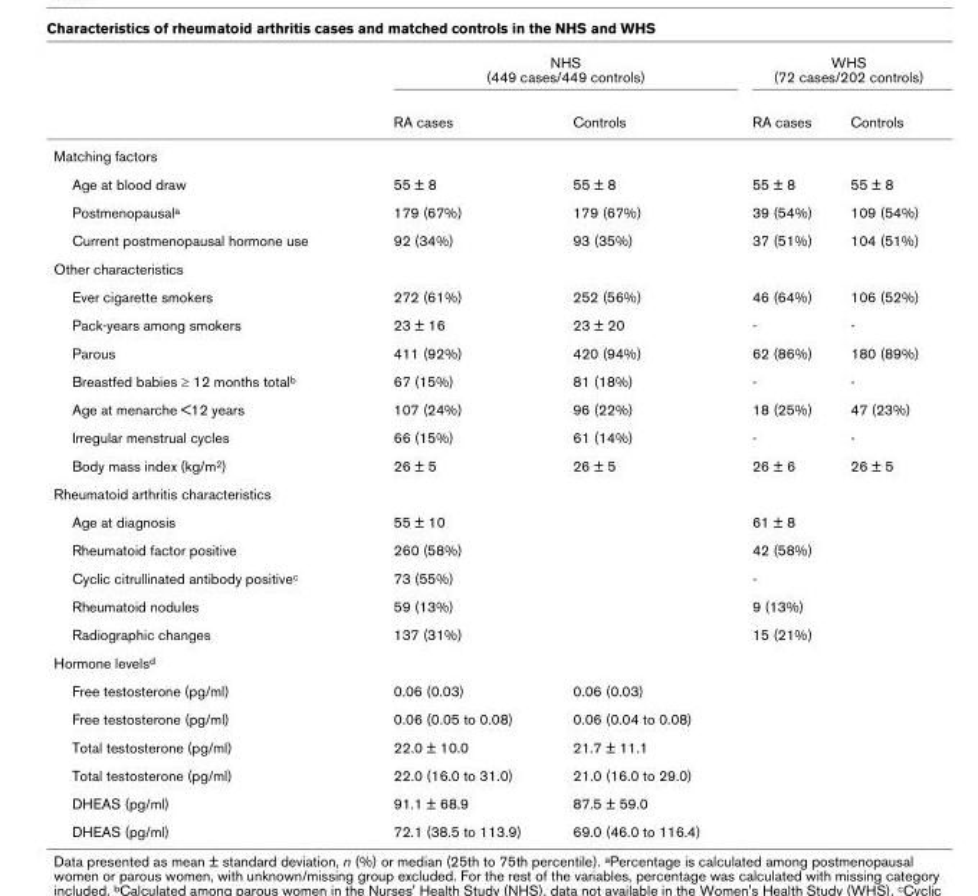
<table><thead><tr><td rowspan="2"></td><td colspan="2">NHS (449 cases/449 controls)</td><td colspan="2">WHS (72 cases/202 controls)</td></tr><tr><td>RA cases</td><td>Controls</td><td>RA cases</td><td>Controls</td></tr></thead><tbody><tr><td colspan="5">Matching factors</td></tr><tr><td>Age at blood draw</td><td>55 ± 8</td><td>55 ± 8</td><td>55 ± 8</td><td>55 ± 8</td></tr><tr><td>Postmenopausal<sup>a</sup></td><td>179 (67%)</td><td>179 (67%)</td><td>39 (54%)</td><td>109 (54%)</td></tr><tr><td>Current postmenopausal hormone use</td><td>92 (34%)</td><td>93 (35%)</td><td>37 (51%)</td><td>104 (51%)</td></tr><tr><td colspan="5">Other characteristics</td></tr><tr><td>Ever cigarette smokers</td><td>272 (61%)</td><td>252 (56%)</td><td>46 (64%)</td><td>106 (52%)</td></tr><tr><td>Pack-years among smokers</td><td>23 ± 16</td><td>23 ± 20</td><td>-</td><td>-</td></tr><tr><td>Parous</td><td>411 (92%)</td><td>420 (94%)</td><td>62 (86%)</td><td>180 (89%)</td></tr><tr><td>Breastfed babies ≥ 12 months total<sup>b</sup></td><td>67 (15%)</td><td>81 (18%)</td><td>-</td><td>-</td></tr><tr><td>Age at menarche &lt;12 years</td><td>107 (24%)</td><td>96 (22%)</td><td>18 (25%)</td><td>47 (23%)</td></tr><tr><td>Irregular menstrual cycles</td><td>66 (15%)</td><td>61 (14%)</td><td>-</td><td>-</td></tr><tr><td>Body mass index (kg/m<sup>2</sup>)</td><td>26 ± 5</td><td>26 ± 5</td><td>26 ± 6</td><td>26 ± 5</td></tr><tr><td colspan="5">Rheumatoid arthritis characteristics</td></tr><tr><td>Age at diagnosis</td><td>55 ± 10</td><td></td><td>61 ± 8</td><td></td></tr><tr><td>Rheumatoid factor positive</td><td>260 (58%)</td><td></td><td>42 (58%)</td><td></td></tr><tr><td>Cyclic citrullinated antibody positive<sup>c</sup></td><td>73 (55%)</td><td></td><td>-</td><td></td></tr><tr><td>Rheumatoid nodules</td><td>59 (13%)</td><td></td><td>9 (13%)</td><td></td></tr><tr><td>Radiographic changes</td><td>137 (31%)</td><td></td><td>15 (21%)</td><td></td></tr><tr><td colspan="5">Hormone levels<sup>d</sup></td></tr><tr><td>Free testosterone (pg/ml)</td><td>0.06 (0.03)</td><td>0.06 (0.03)</td><td></td><td></td></tr><tr><td>Free testosterone (pg/ml)</td><td>0.06 (0.05 to 0.08)</td><td>0.06 (0.04 to 0.08)</td><td></td><td></td></tr><tr><td>Total testosterone (pg/ml)</td><td>22.0 ± 10.0</td><td>21.7 ± 11.1</td><td></td><td></td></tr><tr><td>Total testosterone (pg/ml)</td><td>22.0 (16.0 to 31.0)</td><td>21.0 (16.0 to 29.0)</td><td></td><td></td></tr><tr><td>DHEAS (pg/ml)</td><td>91.1 ± 68.9</td><td>87.5 ± 59.0</td><td></td><td></td></tr><tr><td>DHEAS (pg/ml)</td><td>72.1 (38.5 to 113.9)</td><td>69.0 (46.0 to 116.4)</td><td></td><td></td></tr></tbody></table>